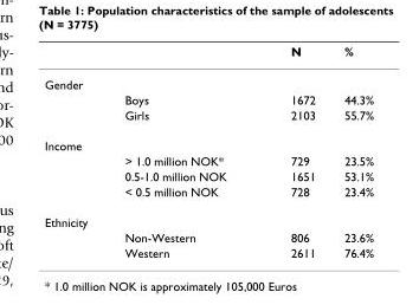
<table><thead><tr><td></td><td></td><td>N</td><td>%</td></tr></thead><tbody><tr><td colspan="4">Gender</td></tr><tr><td></td><td>Boys</td><td>1672</td><td>44.3%</td></tr><tr><td></td><td>Girls</td><td>2103</td><td>55.7%</td></tr><tr><td colspan="4">Income</td></tr><tr><td></td><td>&gt; 1.0 million NOK*</td><td>729</td><td>23.5%</td></tr><tr><td></td><td>0.5-1.0 million NOK</td><td>1651</td><td>53.1%</td></tr><tr><td></td><td>&lt; 0.5 million NOK</td><td>728</td><td>23.4%</td></tr><tr><td colspan="4">Ethnicity</td></tr><tr><td></td><td>Non-Western</td><td>806</td><td>23.6%</td></tr><tr><td></td><td>Western</td><td>2611</td><td>76.4%</td></tr></tbody></table>